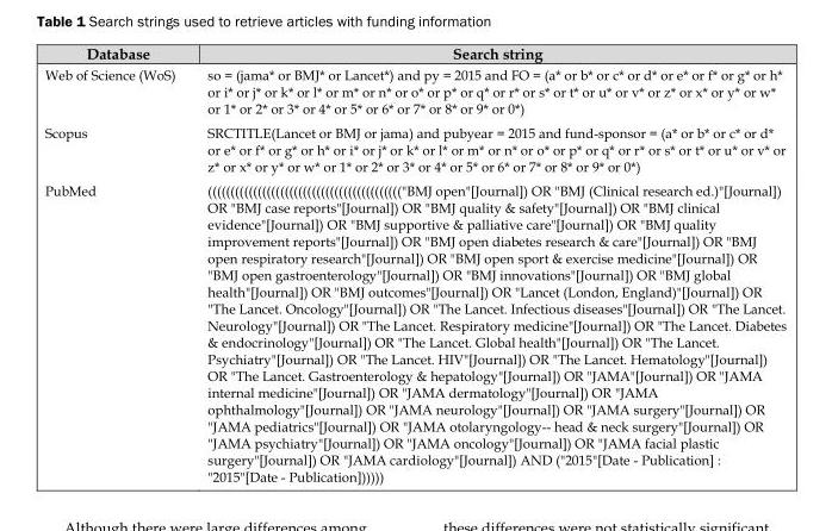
<table><thead><tr><td>Database</td><td>Search string</td></tr></thead><tbody><tr><td>Web of Science (WoS)</td><td>so = (jama* or BMJ* or Lancet*) and py = 2015 and FO = (a* or b* or c* or d* or e* or f* or g* or h* or i* or j* or k* or l* or m* or n* or o* or p* or q* or r* or s* or t* or u* or v* or z* or x* or y* or w* or 1* or 2* or 3* or 4* or 5* or 6* or 7* or 8* or 9* or 0*)</td></tr><tr><td>Scopus</td><td>SRCTITLE(Lancet or BMJ or jama) and pubyear = 2015 and fund-sponsor = (a* or b* or c* or d* or e* or f* or g* or h* or i* or j* or k* or l* or m* or n* or o* or p* or q* or r* or s* or t* or u* or v* or z* or x* or y* or w* or 1* or 2* or 3* or 4* or 5* or 6* or 7* or 8* or 9* or 0*)</td></tr><tr><td>PubMed</td><td>(((((((((((((((((((((((((((((((((((((((((((&quot;BMJ open&quot;[Journal]) OR &quot;BMJ (Clinical research ed.)&quot;[Journal]) OR &quot;BMJ case reports&quot;[Journal]) OR &quot;BMJ quality &amp; safety&quot;[Journal]) OR &quot;BMJ clinical evidence&quot;[Journal]) OR &quot;BMJ supportive &amp; palliative care&quot;[Journal]) OR &quot;BMJ quality improvement reports&quot;[Journal]) OR &quot;BMJ open diabetes research &amp; care&quot;[Journal]) OR &quot;BMJ open respiratory research&quot;[Journal]) OR &quot;BMJ open sport &amp; exercise medicine&quot;[Journal]) OR &quot;BMJ open gastroenterology&quot;[Journal]) OR &quot;BMJ innovations&quot;[Journal]) OR &quot;BMJ global health&quot;[Journal]) OR &quot;BMJ outcomes&quot;[Journal]) OR &quot;Lancet (London, England)&quot;[Journal]) OR &quot;The Lancet. Oncology&quot;[Journal]) OR &quot;The Lancet. Infectious diseases&quot;[Journal]) OR &quot;The Lancet. Neurology&quot;[Journal]) OR &quot;The Lancet. Respiratory medicine&quot;[Journal]) OR &quot;The Lancet. Diabetes &amp; endocrinology&quot;[Journal]) OR &quot;The Lancet. Global health&quot;[Journal]) OR &quot;The Lancet. Psychiatry&quot;[Journal]) OR &quot;The Lancet. HIV&quot;[Journal]) OR &quot;The Lancet. Hematology&quot;[Journal]) OR &quot;The Lancet. Gastroenterology &amp; hepatology&quot;[Journal]) OR &quot;JAMA&quot;[Journal]) OR &quot;JAMA internal medicine&quot;[Journal]) OR &quot;JAMA dermatology&quot;[Journal]) OR &quot;JAMA ophthalmology&quot;[Journal]) OR &quot;JAMA neurology&quot;[Journal]) OR &quot;JAMA surgery&quot;[Journal]) OR &quot;JAMA pediatrics&quot;[Journal]) OR &quot;JAMA otolaryngology-- head &amp; neck surgery&quot;[Journal]) OR &quot;JAMA psychiatry&quot;[Journal]) OR &quot;JAMA oncology&quot;[Journal]) OR &quot;JAMA facial plastic surgery&quot;[Journal]) OR &quot;JAMA cardiology&quot;[Journal]) AND (&quot;2015&quot;[Date - Publication] : &quot;2015&quot;[Date - Publication])))))</td></tr></tbody></table>